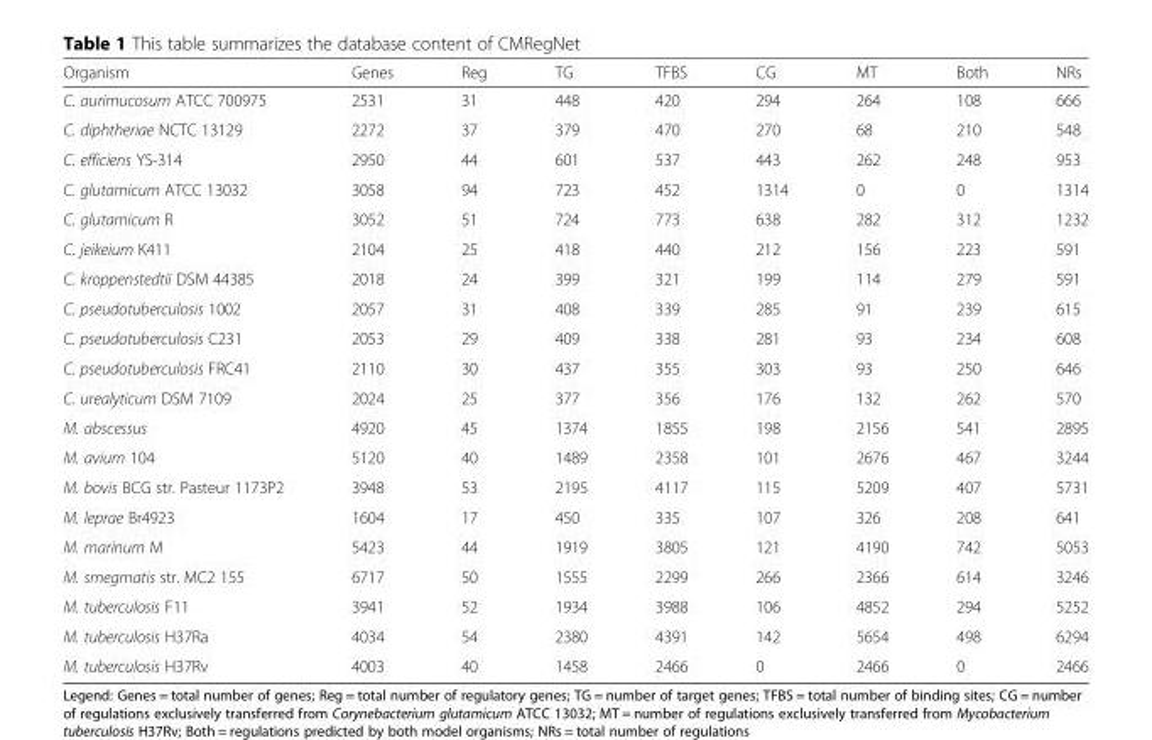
<table><thead><tr><td>Organism</td><td>Genes</td><td>Reg</td><td>TG</td><td>TFBS</td><td>CG</td><td>MT</td><td>Both</td><td>NRs</td></tr></thead><tbody><tr><td>C. aurimucosum ATCC 700975</td><td>2531</td><td>31</td><td>448</td><td>420</td><td>294</td><td>264</td><td>108</td><td>666</td></tr><tr><td>C. diphtheriae NCTC 13129</td><td>2272</td><td>37</td><td>379</td><td>470</td><td>270</td><td>68</td><td>210</td><td>548</td></tr><tr><td>C. efficiens YS-314</td><td>2950</td><td>44</td><td>601</td><td>537</td><td>443</td><td>262</td><td>248</td><td>953</td></tr><tr><td>C. glutamicum ATCC 13032</td><td>3058</td><td>94</td><td>723</td><td>452</td><td>1314</td><td>0</td><td>0</td><td>1314</td></tr><tr><td>C. glutamicum R</td><td>3052</td><td>51</td><td>724</td><td>773</td><td>638</td><td>282</td><td>312</td><td>1232</td></tr><tr><td>C. jeikeium K411</td><td>2104</td><td>25</td><td>418</td><td>440</td><td>212</td><td>156</td><td>223</td><td>591</td></tr><tr><td>C. kroppenstedtii DSM 44385</td><td>2018</td><td>24</td><td>399</td><td>321</td><td>199</td><td>114</td><td>279</td><td>591</td></tr><tr><td>C. pseudotuberculosis 1002</td><td>2057</td><td>31</td><td>408</td><td>339</td><td>285</td><td>91</td><td>239</td><td>615</td></tr><tr><td>C. pseudotuberculosis C231</td><td>2053</td><td>29</td><td>409</td><td>338</td><td>281</td><td>93</td><td>234</td><td>608</td></tr><tr><td>C. pseudotuberculosis FRC41</td><td>2110</td><td>30</td><td>437</td><td>355</td><td>303</td><td>93</td><td>250</td><td>646</td></tr><tr><td>C. urealyticum DSM 7109</td><td>2024</td><td>25</td><td>377</td><td>356</td><td>176</td><td>132</td><td>262</td><td>570</td></tr><tr><td>M. abscessus</td><td>4920</td><td>45</td><td>1374</td><td>1855</td><td>198</td><td>2156</td><td>541</td><td>2895</td></tr><tr><td>M. avium 104</td><td>5120</td><td>40</td><td>1489</td><td>2358</td><td>101</td><td>2676</td><td>467</td><td>3244</td></tr><tr><td>M. bovis BCG str. Pasteur 1173P2</td><td>3948</td><td>53</td><td>2195</td><td>4117</td><td>115</td><td>5209</td><td>407</td><td>5731</td></tr><tr><td>M. leprae Br4923</td><td>1604</td><td>17</td><td>450</td><td>335</td><td>107</td><td>326</td><td>208</td><td>641</td></tr><tr><td>M. marinum M</td><td>5423</td><td>44</td><td>1919</td><td>3805</td><td>121</td><td>4190</td><td>742</td><td>5053</td></tr><tr><td>M. smegmatis str. MC2 155</td><td>6717</td><td>50</td><td>1555</td><td>2299</td><td>266</td><td>2366</td><td>614</td><td>3246</td></tr><tr><td>M. tuberculosis F11</td><td>3941</td><td>52</td><td>1934</td><td>3988</td><td>106</td><td>4852</td><td>294</td><td>5252</td></tr><tr><td>M. tuberculosis H37Ra</td><td>4034</td><td>54</td><td>2380</td><td>4391</td><td>142</td><td>5654</td><td>498</td><td>6294</td></tr><tr><td>M. tuberculosis H37Rv</td><td>4003</td><td>40</td><td>1458</td><td>2466</td><td>0</td><td>2466</td><td>0</td><td>2466</td></tr></tbody></table>